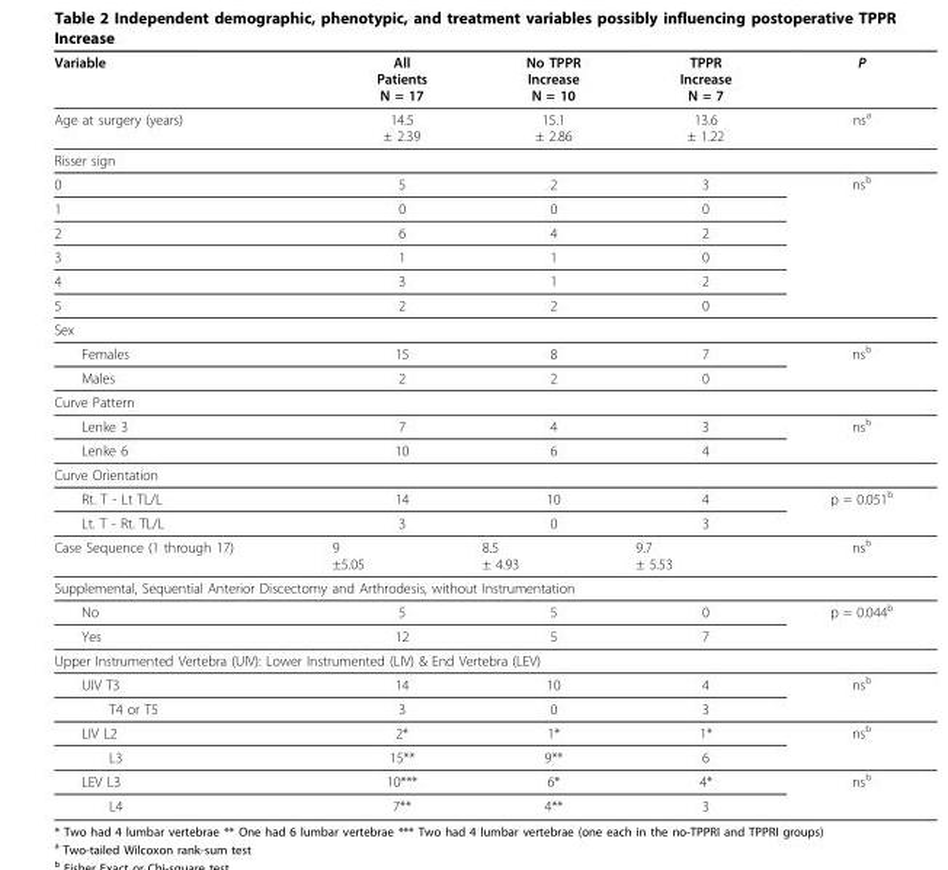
<table><thead><tr><td>Variable</td><td>All Patients N = 17</td><td>No TPPR Increase N = 10</td><td>TPPR Increase N = 7</td><td>P</td></tr></thead><tbody><tr><td>Age at surgery (years)</td><td>14.5 ± 2.39</td><td>15.1 ± 2.86</td><td>13.6 ± 1.22</td><td>ns<sup>a</sup></td></tr><tr><td colspan="5">Risser sign</td></tr><tr><td>0</td><td>5</td><td>2</td><td>3</td><td>ns<sup>b</sup></td></tr><tr><td>1</td><td>0</td><td>0</td><td>0</td><td></td></tr><tr><td>2</td><td>6</td><td>4</td><td>2</td><td></td></tr><tr><td>3</td><td>1</td><td>1</td><td>0</td><td></td></tr><tr><td>4</td><td>3</td><td>1</td><td>2</td><td></td></tr><tr><td>5</td><td>2</td><td>2</td><td>0</td><td></td></tr><tr><td colspan="5">Sex</td></tr><tr><td>Females</td><td>15</td><td>8</td><td>7</td><td>ns<sup>b</sup></td></tr><tr><td>Males</td><td>2</td><td>2</td><td>0</td><td></td></tr><tr><td colspan="5">Curve Pattern</td></tr><tr><td>Lenke 3</td><td>7</td><td>4</td><td>3</td><td>ns<sup>b</sup></td></tr><tr><td>Lenke 6</td><td>10</td><td>6</td><td>4</td><td></td></tr><tr><td colspan="5">Curve Orientation</td></tr><tr><td>Rt. T - Lt TL/L</td><td>14</td><td>10</td><td>4</td><td>p = 0.051<sup>b</sup></td></tr><tr><td>Lt. T - Rt. TL/L</td><td>3</td><td>0</td><td>3</td><td></td></tr><tr><td>Case Sequence (1 through 17)</td><td>9 ±5.05</td><td>8.5 ± 4.93</td><td>9.7 ± 5.53</td><td>ns<sup>b</sup></td></tr><tr><td colspan="5">Supplemental, Sequential Anterior Discectomy and Arthrodesis, without Instrumentation</td></tr><tr><td>No</td><td>5</td><td>5</td><td>0</td><td>p = 0.044<sup>b</sup></td></tr><tr><td>Yes</td><td>12</td><td>5</td><td>7</td><td></td></tr><tr><td colspan="5">Upper Instrumented Vertebra (UIV): Lower Instrumented (LIV) &amp; End Vertebra (LEV)</td></tr><tr><td>UIV T3</td><td>14</td><td>10</td><td>4</td><td>ns<sup>b</sup></td></tr><tr><td>T4 or T5</td><td>3</td><td>0</td><td>3</td><td></td></tr><tr><td>LIV L2</td><td>2*</td><td>1*</td><td>1*</td><td>ns<sup>b</sup></td></tr><tr><td>L3</td><td>15**</td><td>9**</td><td>6</td><td></td></tr><tr><td>LEV L3</td><td>10***</td><td>6*</td><td>4*</td><td>ns<sup>b</sup></td></tr><tr><td>L4</td><td>7**</td><td>4**</td><td>3</td><td></td></tr></tbody></table>